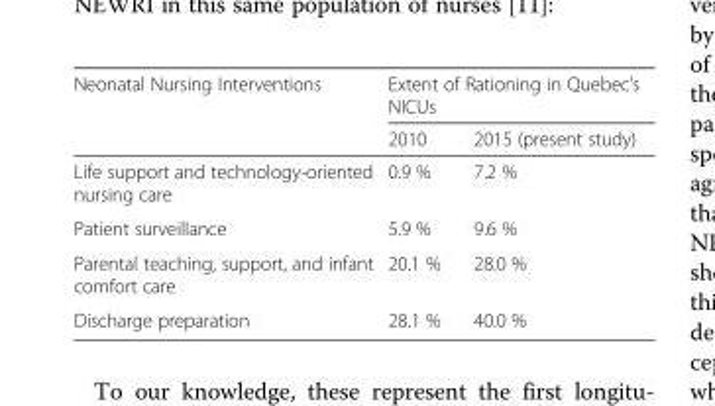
<table><thead><tr><td rowspan="2">Neonatal Nursing Interventions</td><td colspan="2">Extent of Rationing in Quebec’s NICUs</td></tr><tr><td>2010</td><td>2015 (present study)</td></tr></thead><tbody><tr><td>Life support and technology-oriented nursing care</td><td>0.9 %</td><td>7.2 %</td></tr><tr><td>Patient surveillance</td><td>5.9 %</td><td>9.6 %</td></tr><tr><td>Parental teaching, support, and infant comfort care</td><td>20.1 %</td><td>28.0 %</td></tr><tr><td>Discharge preparation</td><td>28.1 %</td><td>40.0 %</td></tr></tbody></table>